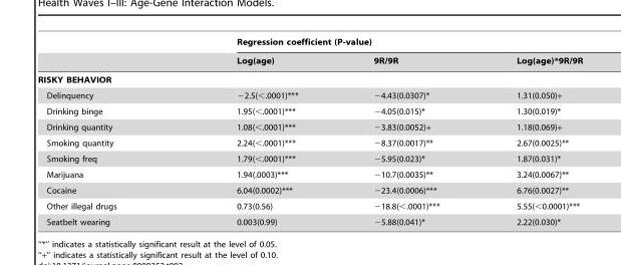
<table><thead><tr><td rowspan="2"></td><td colspan="3">Regression coefficient (P-value)</td></tr><tr><td>Log(age)</td><td>9R/9R</td><td>Log(age)*9R/9R</td></tr></thead><tbody><tr><td colspan="4">RISKY BEHAVIOR</td></tr><tr><td>Delinquency</td><td>−2.5(&lt;.0001)***</td><td>−4.43(0.0307)*</td><td>1.31(0.050)+</td></tr><tr><td>Drinking binge</td><td>1.95(&lt;.0001)***</td><td>−4.05(0.015)*</td><td>1.30(0.019)*</td></tr><tr><td>Drinking quantity</td><td>1.08(&lt;.0001)***</td><td>−3.83(0.0052)+</td><td>1.18(0.069)+</td></tr><tr><td>Smoking quantity</td><td>2.24(&lt;.0001)***</td><td>−8.37(0.0017)**</td><td>2.67(0.0025)**</td></tr><tr><td>Smoking freq</td><td>1.79(&lt;.0001)***</td><td>−5.95(0.023)*</td><td>1.87(0.031)*</td></tr><tr><td>Marijuana</td><td>1.94(.0003)***</td><td>−10.7(0.0035)**</td><td>3.24(0.0067)**</td></tr><tr><td>Cocaine</td><td>6.04(0.0002)***</td><td>−23.4(0.0006)***</td><td>6.76(0.0027)**</td></tr><tr><td>Other illegal drugs</td><td>0.73(0.56)</td><td>−18.8(&lt;.0001)***</td><td>5.55(&lt;0.0001)***</td></tr><tr><td>Seatbelt wearing</td><td>0.003(0.99)</td><td>−5.88(0.041)*</td><td>2.22(0.030)*</td></tr></tbody></table>